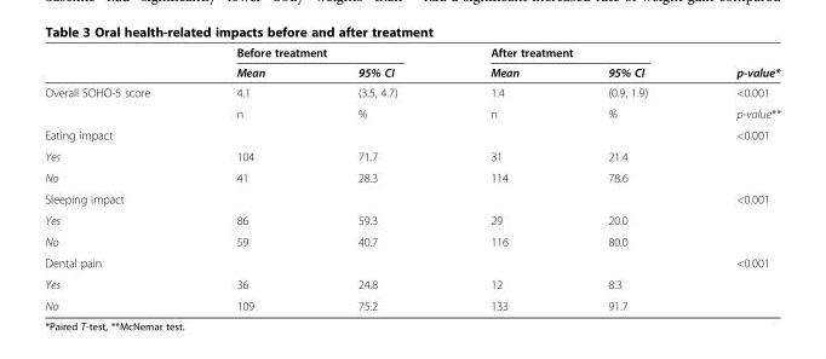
<table><thead><tr><td rowspan="2"></td><td colspan="2">Before treatment</td><td colspan="2">After treatment</td><td rowspan="2">p-value*</td></tr><tr><td>Mean</td><td>95% CI</td><td>Mean</td><td>95% CI</td></tr></thead><tbody><tr><td rowspan="2">Overall SOHO-5 score</td><td>4.1</td><td>(3.5, 4.7)</td><td>1.4</td><td>(0.9, 1.9)</td><td>&lt;0.001</td></tr><tr><td>n</td><td>%</td><td>n</td><td>%</td><td>p-value**</td></tr><tr><td>Eating impact</td><td></td><td></td><td></td><td></td><td>&lt;0.001</td></tr><tr><td>Yes</td><td>104</td><td>71.7</td><td>31</td><td>21.4</td><td></td></tr><tr><td>No</td><td>41</td><td>28.3</td><td>114</td><td>78.6</td><td></td></tr><tr><td>Sleeping impact</td><td></td><td></td><td></td><td></td><td>&lt;0.001</td></tr><tr><td>Yes</td><td>86</td><td>59.3</td><td>29</td><td>20.0</td><td></td></tr><tr><td>No</td><td>59</td><td>40.7</td><td>116</td><td>80.0</td><td></td></tr><tr><td>Dental pain</td><td></td><td></td><td></td><td></td><td>&lt;0.001</td></tr><tr><td>Yes</td><td>36</td><td>24.8</td><td>12</td><td>8.3</td><td></td></tr><tr><td>No</td><td>109</td><td>75.2</td><td>133</td><td>91.7</td><td></td></tr></tbody></table>